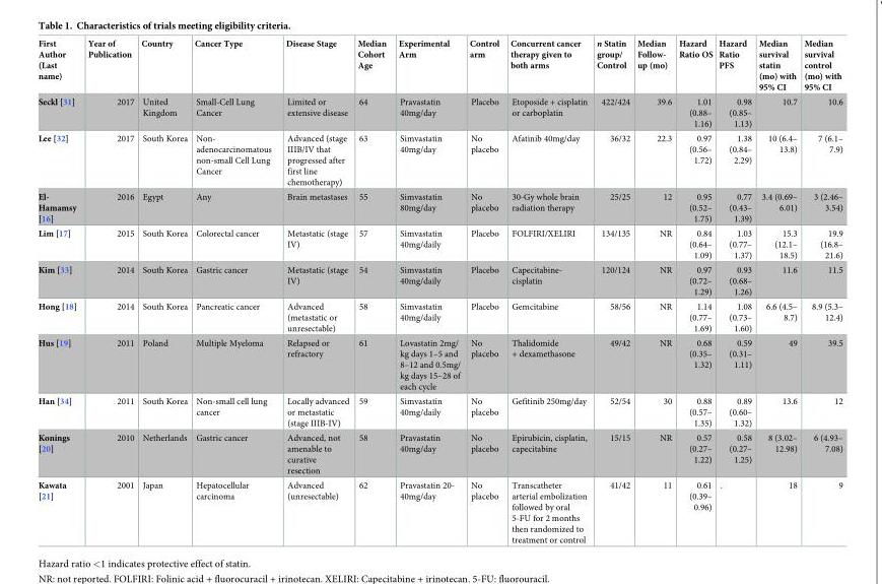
<table><thead><tr><td>First Author (Last name)</td><td>Year of Publication</td><td>Country</td><td>Cancer Type</td><td>Disease Stage</td><td>Median Cohort Age</td><td>Experimental Arm</td><td>Control arm</td><td>Concurrent cancer therapy given to both arms</td><td>n Statin group/ Control</td><td>Median Follow- up (mo)</td><td>Hazard Ratio OS</td><td>Hazard Ratio PFS</td><td>Median survival statin (mo) with 95% CI</td><td>Median survival control (mo) with 95% CI</td></tr></thead><tbody><tr><td>Seckl [31]</td><td>2017</td><td>United Kingdom</td><td>Small-Cell Lung Cancer</td><td>Limited or extensive disease</td><td>64</td><td>Pravastatin 40mg/day</td><td>Placebo</td><td>Etoposide + cisplatin or carboplatin</td><td>422/424</td><td>39.6</td><td>1.01 (0.88– 1.16)</td><td>0.98 (0.85– 1.13)</td><td>10.7</td><td>10.6</td></tr><tr><td>Lee [32]</td><td>2017</td><td>South Korea</td><td>Non- adenocarcinomatous non-small Cell Lung Cancer</td><td>Advanced (stage IIIB/IV that progressed after first line chemotherapy)</td><td>63</td><td>Simvastatin 40mg/day</td><td>No placebo</td><td>Afatinib 40mg/day</td><td>36/32</td><td>22.3</td><td>0.97 (0.56– 1.72)</td><td>1.38 (0.84– 2.29)</td><td>10 (6.4– 13.8)</td><td>7 (6.1– 7.9)</td></tr><tr><td>El- Hamamsy [16]</td><td>2016</td><td>Egypt</td><td>Any</td><td>Brain metastases</td><td>55</td><td>Simvastatin 80mg/day</td><td>No placebo</td><td>30-Gy whole brain radiation therapy</td><td>25/25</td><td>12</td><td>0.95 (0.52– 1.75)</td><td>0.77 (0.43– 1.39)</td><td>3.4 (0.69– 6.01)</td><td>3 (2.46– 3.54)</td></tr><tr><td>Lim [17]</td><td>2015</td><td>South Korea</td><td>Colorectal cancer</td><td>Metastatic (stage IV)</td><td>57</td><td>Simvastatin 40mg/daily</td><td>Placebo</td><td>FOLFIRI/XELIRI</td><td>134/135</td><td>NR</td><td>0.84 (0.64– 1.09)</td><td>1.03 (0.77– 1.37)</td><td>15.3 (12.1– 18.5)</td><td>19.9 (16.8– 21.6)</td></tr><tr><td>Kim [33]</td><td>2014</td><td>South Korea</td><td>Gastric cancer</td><td>Metastatic (stage IV)</td><td>54</td><td>Simvastatin 40mg/daily</td><td>Placebo</td><td>Capecitabine- cisplatin</td><td>120/124</td><td>NR</td><td>0.97 (0.72– 1.29)</td><td>0.93 (0.68– 1.26)</td><td>11.6</td><td>11.5</td></tr><tr><td>Hong [18]</td><td>2014</td><td>South Korea</td><td>Pancreatic cancer</td><td>Advanced (metastatic or unresectable)</td><td>58</td><td>Simvastatin 40mg/daily</td><td>Placebo</td><td>Gemcitabine</td><td>58/56</td><td>NR</td><td>1.14 (0.77– 1.69)</td><td>1.08 (0.73– 1.60)</td><td>6.6 (4.5– 8.7)</td><td>8.9 (5.3– 12.4)</td></tr><tr><td>Hus [19]</td><td>2011</td><td>Poland</td><td>Multiple Myeloma</td><td>Relapsed or refractory</td><td>61</td><td>Lovastatin 2mg/ kg days 1–5 and 8–12 and 0.5mg/ kg days 15–28 of each cycle</td><td>No placebo</td><td>Thalidomide + dexamethasone</td><td>49/42</td><td>NR</td><td>0.68 (0.35– 1.32)</td><td>0.59 (0.31– 1.11)</td><td>49</td><td>39.5</td></tr><tr><td>Han [34]</td><td>2011</td><td>South Korea</td><td>Non-small cell lung cancer</td><td>Locally advanced or metastatic (stage IIIB-IV)</td><td>59</td><td>Simvastatin 40mg/daily</td><td>No placebo</td><td>Gefitinib 250mg/day</td><td>52/54</td><td>30</td><td>0.88 (0.57– 1.35)</td><td>0.89 (0.60– 1.32)</td><td>13.6</td><td>12</td></tr><tr><td>Konings [20]</td><td>2010</td><td>Netherlands</td><td>Gastric cancer</td><td>Advanced, not amenable to curative resection</td><td>58</td><td>Pravastatin 40mg/day</td><td>No placebo</td><td>Epirubicin, cisplatin, capecitabine</td><td>15/15</td><td>NR</td><td>0.57 (0.27– 1.22)</td><td>0.58 (0.27– 1.25)</td><td>8 (3.02– 12.98)</td><td>6 (4.93– 7.08)</td></tr><tr><td>Kawata [21]</td><td>2001</td><td>Japan</td><td>Hepatocellular carcinoma</td><td>Advanced (unresectable)</td><td>62</td><td>Pravastatin 20- 40mg/day</td><td>No placebo</td><td>Transcatheter arterial embolization followed by oral 5-FU for 2 months then randomized to treatment or control</td><td>41/42</td><td>11</td><td>0.61 (0.39– 0.96)</td><td>.</td><td>18</td><td>9</td></tr></tbody></table>